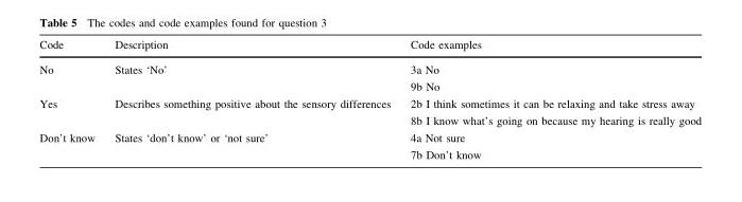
<table><thead><tr><td>Code</td><td>Description</td><td>Code examples</td></tr></thead><tbody><tr><td rowspan="2">No</td><td rowspan="2">States ‘No’</td><td>3a No</td></tr><tr><td>9b No</td></tr><tr><td rowspan="2">Yes</td><td rowspan="2">Describes something positive about the sensory differences</td><td>2b I think sometimes it can be relaxing and take stress away</td></tr><tr><td>8b I know what’s going on because my hearing is really good</td></tr><tr><td rowspan="2">Don’t know</td><td rowspan="2">States ‘don’t know’ or ‘not sure’</td><td>4a Not sure</td></tr><tr><td>7b Don’t know</td></tr></tbody></table>